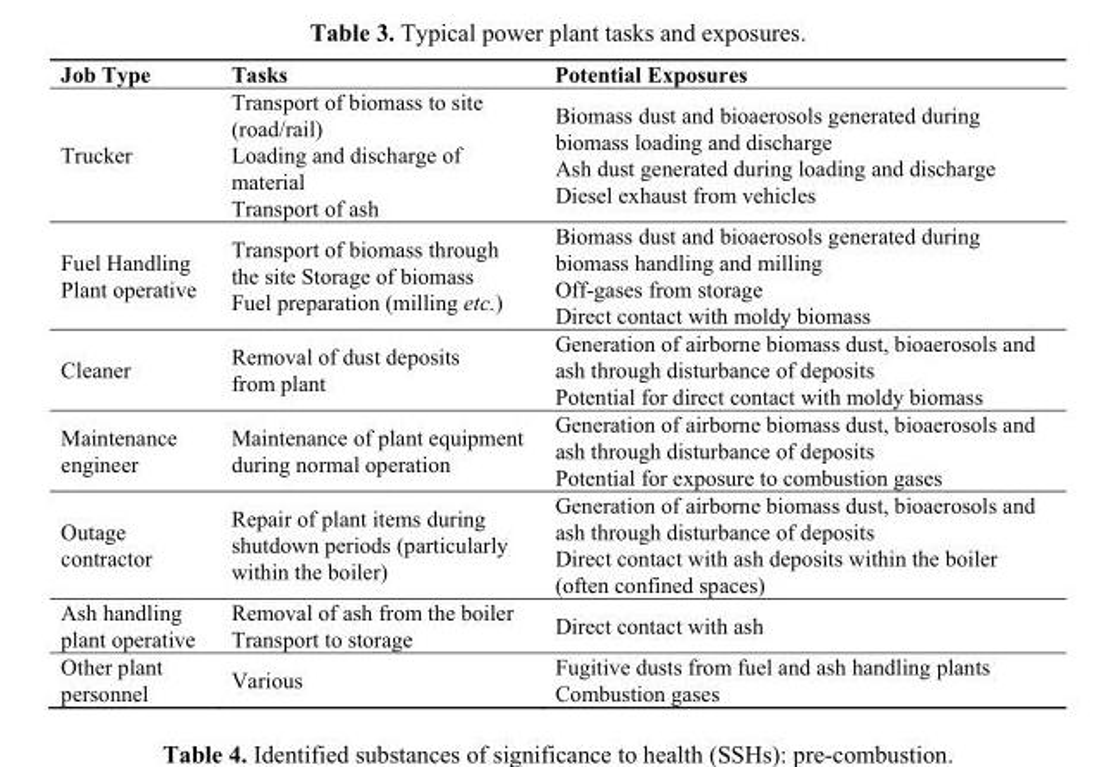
<table><thead><tr><td>Job Type</td><td>Tasks</td><td>Potential Exposures</td></tr></thead><tbody><tr><td>Trucker</td><td>Transport of biomass to site (road/rail) Loading and discharge of material Transport of ash</td><td>Biomass dust and bioaerosols generated during biomass loading and discharge Ash dust generated during loading and discharge Diesel exhaust from vehicles</td></tr><tr><td>Fuel Handling Plant operative</td><td>Transport of biomass through the site Storage of biomass Fuel preparation (milling etc.)</td><td>Biomass dust and bioaerosols generated during biomass handling and milling Off-gases from storage Direct contact with moldy biomass</td></tr><tr><td>Cleaner</td><td>Removal of dust deposits from plant</td><td>Generation of airborne biomass dust, bioaerosols and ash through disturbance of deposits Potential for direct contact with moldy biomass</td></tr><tr><td>Maintenance engineer</td><td>Maintenance of plant equipment during normal operation</td><td>Generation of airborne biomass dust, bioaerosols and ash through disturbance of deposits Potential for exposure to combustion gases</td></tr><tr><td>Outage contractor</td><td>Repair of plant items during shutdown periods (particularly within the boiler)</td><td>Generation of airborne biomass dust, bioaerosols and ash through disturbance of deposits Direct contact with ash deposits within the boiler (often confined spaces)</td></tr><tr><td>Ash handling plant operative</td><td>Removal of ash from the boiler Transport to storage</td><td>Direct contact with ash</td></tr><tr><td>Other plant personnel</td><td>Various</td><td>Fugitive dusts from fuel and ash handling plants Combustion gases</td></tr></tbody></table>